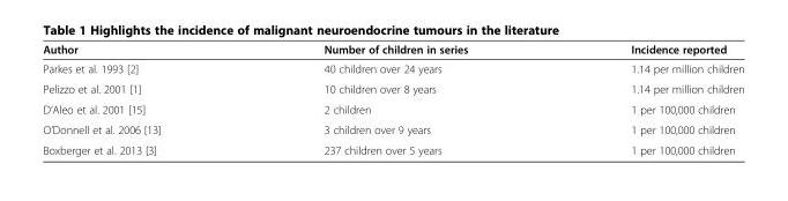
<table><thead><tr><td>Author</td><td>Number of children in series</td><td>Incidence reported</td></tr></thead><tbody><tr><td>Parkes et al. 1993 [2]</td><td>40 children over 24 years</td><td>1.14 per million children</td></tr><tr><td>Pelizzo et al. 2001 [1]</td><td>10 children over 8 years</td><td>1.14 per million children</td></tr><tr><td>D’Aleo et al. 2001 [15]</td><td>2 children</td><td>1 per 100,000 children</td></tr><tr><td>O’Donnell et al. 2006 [13]</td><td>3 children over 9 years</td><td>1 per 100,000 children</td></tr><tr><td>Boxberger et al. 2013 [3]</td><td>237 children over 5 years</td><td>1 per 100,000 children</td></tr></tbody></table>